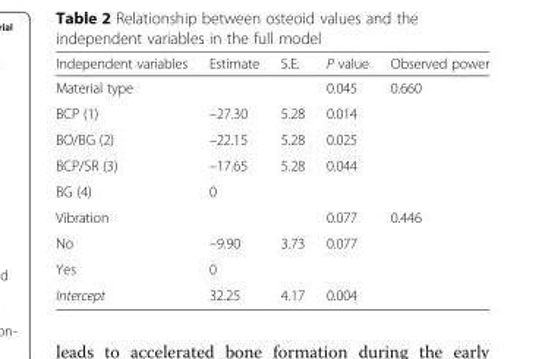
<table><thead><tr><td>Independent variables</td><td>Estimate</td><td>S.E.</td><td>P value</td><td>Observed power</td></tr></thead><tbody><tr><td>Material type</td><td></td><td></td><td>0.045</td><td>0.660</td></tr><tr><td>BCP (1)</td><td>–27.30</td><td>5.28</td><td>0.014</td><td></td></tr><tr><td>BO/BG (2)</td><td>–22.15</td><td>5.28</td><td>0.025</td><td></td></tr><tr><td>BCP/SR (3)</td><td>–17.65</td><td>5.28</td><td>0.044</td><td></td></tr><tr><td>BG (4)</td><td>0</td><td></td><td></td><td></td></tr><tr><td>Vibration</td><td></td><td></td><td>0.077</td><td>0.446</td></tr><tr><td>No</td><td>–9.90</td><td>3.73</td><td>0.077</td><td></td></tr><tr><td>Yes</td><td>0</td><td></td><td></td><td></td></tr><tr><td>Intercept</td><td>32.25</td><td>4.17</td><td>0.004</td><td></td></tr></tbody></table>